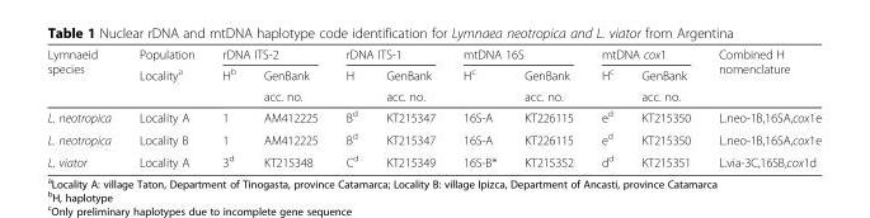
<table><thead><tr><td rowspan="3">Lymnaeid species</td><td rowspan="3">Population Localitya</td><td colspan="2">rDNA ITS-2</td><td colspan="2">rDNA ITS-1</td><td colspan="2">mtDNA 16S</td><td colspan="2">mtDNA cox1</td><td rowspan="3">Combined H nomenclature</td></tr><tr><td rowspan="2">H<sup>b</sup></td><td rowspan="2">GenBank acc. no.</td><td rowspan="2">H</td><td rowspan="2">GenBank acc. no.</td><td rowspan="2">H<sup>c</sup></td><td rowspan="2">GenBank acc. no.</td><td rowspan="2">H<sup>c</sup></td><td rowspan="2">GenBank acc. no.</td></tr><tr></tr></thead><tbody><tr><td>L. neotropica</td><td>Locality A</td><td>1</td><td>AM412225</td><td>B<sup>d</sup></td><td>KT215347</td><td>16S-A</td><td>KT226115</td><td>e<sup>d</sup></td><td>KT215350</td><td>L.neo-1B,16SA,cox1e</td></tr><tr><td>L. neotropica</td><td>Locality B</td><td>1</td><td>AM412225</td><td>B<sup>d</sup></td><td>KT215347</td><td>16S-A</td><td>KT226115</td><td>e<sup>d</sup></td><td>KT215350</td><td>L.neo-1B,16SA,cox1e</td></tr><tr><td>L. viator</td><td>Locality A</td><td>3<sup>d</sup></td><td>KT215348</td><td>C<sup>d</sup></td><td>KT215349</td><td>16S-B*</td><td>KT215352</td><td>d<sup>d</sup></td><td>KT215351</td><td>L.via-3C,16SB,cox1d</td></tr></tbody></table>